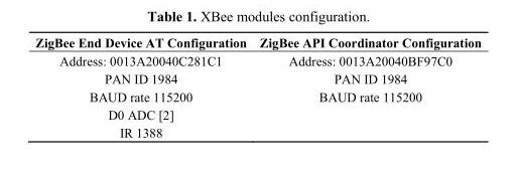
<table><thead><tr><td>ZigBee End Device AT Configuration</td><td>ZigBee API Coordinator Configuration</td></tr></thead><tbody><tr><td>Address: 0013A20040C281C1</td><td>Address: 0013A20040BF97C0</td></tr><tr><td>PAN ID 1984</td><td>PAN ID 1984</td></tr><tr><td>BAUD rate 115200</td><td>BAUD rate 115200</td></tr><tr><td colspan="2">D0 ADC [2]</td></tr><tr><td>IR 1388</td><td></td></tr></tbody></table>